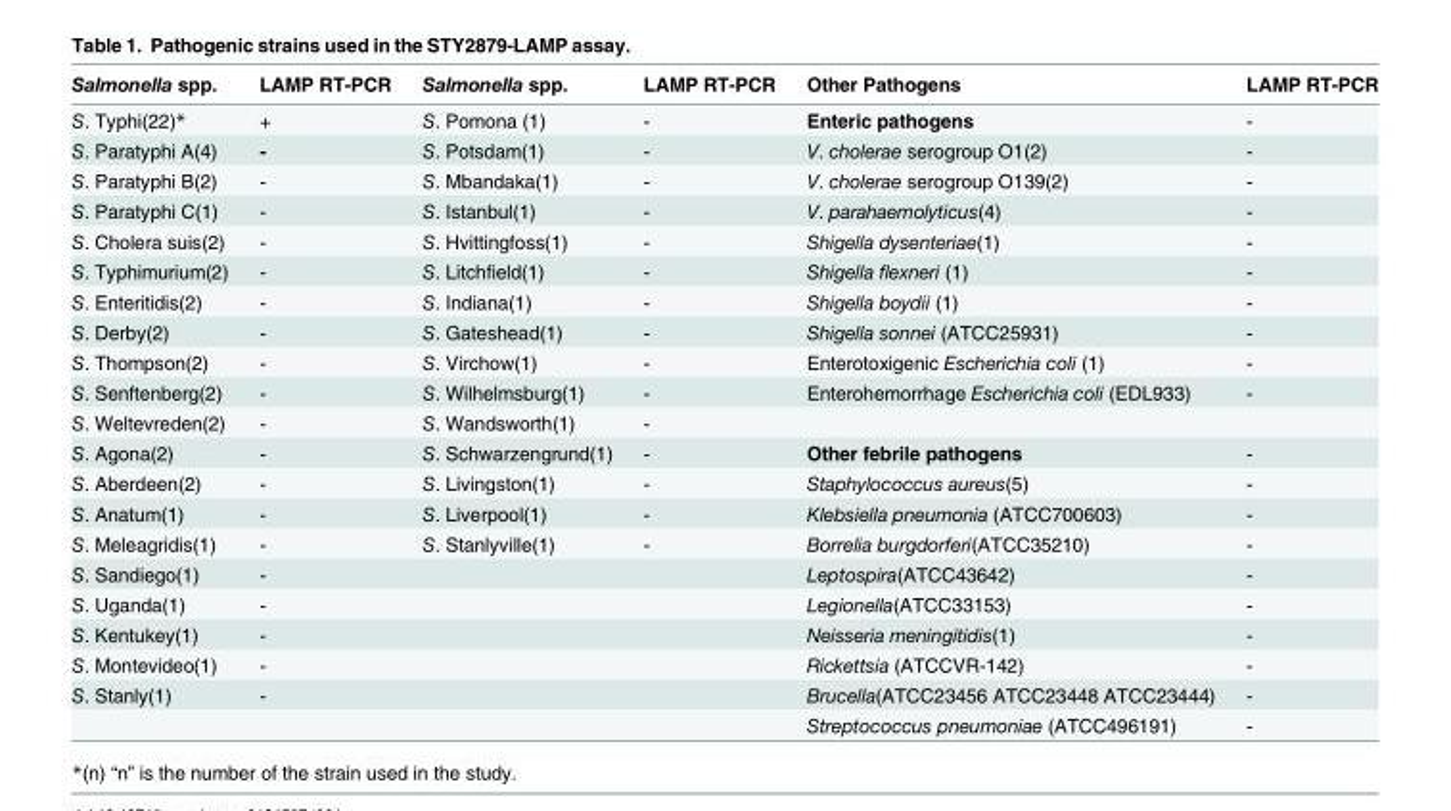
<table><thead><tr><td>Salmonella spp.</td><td>LAMP RT-PCR</td><td>Salmonella spp.</td><td>LAMP RT-PCR</td><td>Other Pathogens</td><td>LAMP RT-PCR</td></tr></thead><tbody><tr><td>S. Typhi(22)*</td><td>+</td><td>S. Pomona (1)</td><td>-</td><td>Enteric pathogens</td><td>-</td></tr><tr><td>S. Paratyphi A(4)</td><td>-</td><td>S. Potsdam(1)</td><td>-</td><td>V. cholerae serogroup O1(2)</td><td>-</td></tr><tr><td>S. Paratyphi B(2)</td><td>-</td><td>S. Mbandaka(1)</td><td>-</td><td>V. cholerae serogroup O139(2)</td><td>-</td></tr><tr><td>S. Paratyphi C(1)</td><td>-</td><td>S. Istanbul(1)</td><td>-</td><td>V. parahaemolyticus(4)</td><td>-</td></tr><tr><td>S. Cholera suis(2)</td><td>-</td><td>S. Hvittingfoss(1)</td><td>-</td><td>Shigella dysenteriae(1)</td><td>-</td></tr><tr><td>S. Typhimurium(2)</td><td>-</td><td>S. Litchfield(1)</td><td>-</td><td>Shigella flexneri (1)</td><td>-</td></tr><tr><td>S. Enteritidis(2)</td><td>-</td><td>S. Indiana(1)</td><td>-</td><td>Shigella boydii (1)</td><td>-</td></tr><tr><td>S. Derby(2)</td><td>-</td><td>S. Gateshead(1)</td><td>-</td><td>Shigella sonnei (ATCC25931)</td><td>-</td></tr><tr><td>S. Thompson(2)</td><td>-</td><td>S. Virchow(1)</td><td>-</td><td>Enterotoxigenic Escherichia coli (1)</td><td>-</td></tr><tr><td>S. Senftenberg(2)</td><td>-</td><td>S. Wilhelmsburg(1)</td><td>-</td><td>Enterohemorrhage Escherichia coli (EDL933)</td><td>-</td></tr><tr><td>S. Weltevreden(2)</td><td>-</td><td>S. Wandsworth(1)</td><td>-</td><td></td><td></td></tr><tr><td>S. Agona(2)</td><td>-</td><td>S. Schwarzengrund(1)</td><td>-</td><td>Other febrile pathogens</td><td>-</td></tr><tr><td>S. Aberdeen(2)</td><td>-</td><td>S. Livingston(1)</td><td>-</td><td>Staphylococcus aureus(5)</td><td>-</td></tr><tr><td>S. Anatum(1)</td><td>-</td><td>S. Liverpool(1)</td><td>-</td><td>Klebsiella pneumonia (ATCC700603)</td><td>-</td></tr><tr><td>S. Meleagridis(1)</td><td>-</td><td>S. Stanlyville(1)</td><td>-</td><td>Borrelia burgdorferi(ATCC35210)</td><td>-</td></tr><tr><td>S. Sandiego(1)</td><td>-</td><td></td><td></td><td>Leptospira(ATCC43642)</td><td>-</td></tr><tr><td>S. Uganda(1)</td><td>-</td><td></td><td></td><td>Legionella(ATCC33153)</td><td>-</td></tr><tr><td>S. Kentukey(1)</td><td>-</td><td></td><td></td><td>Neisseria meningitidis(1)</td><td>-</td></tr><tr><td>S. Montevideo(1)</td><td>-</td><td></td><td></td><td>Rickettsia (ATCCVR-142)</td><td>-</td></tr><tr><td rowspan="2">S. Stanly(1)</td><td>-</td><td></td><td></td><td>Brucella(ATCC23456 ATCC23448 ATCC23444)</td><td>-</td></tr><tr><td></td><td></td><td></td><td>Streptococcus pneumoniae (ATCC496191)</td><td>-</td></tr></tbody></table>